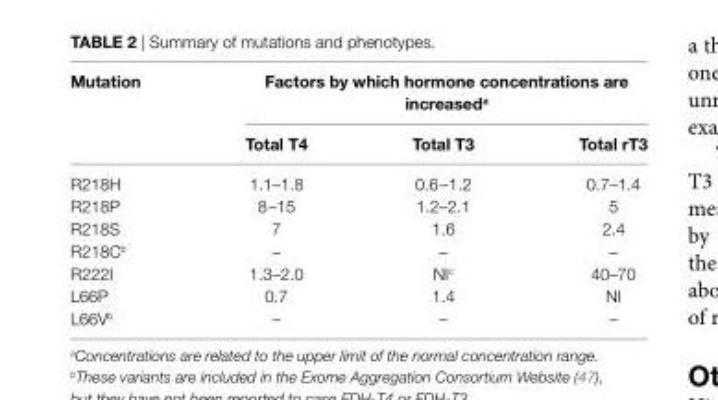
<table><thead><tr><td rowspan="2">Mutation</td><td colspan="3">Factors by which hormone concentrations are increased<sup>a</sup></td></tr><tr><td>Total T4</td><td>Total T3</td><td>Total rT3</td></tr></thead><tbody><tr><td>R218H</td><td>1.1–1.8</td><td>0.6–1.2</td><td>0.7–1.4</td></tr><tr><td>R218P</td><td>8–15</td><td>1.2–2.1</td><td>5</td></tr><tr><td>R218S</td><td>7</td><td>1.6</td><td>2.4</td></tr><tr><td>R218C<sup>b</sup></td><td>–</td><td>–</td><td>–</td></tr><tr><td>R222I</td><td>1.3–2.0</td><td>NI<sup>c</sup></td><td>40–70</td></tr><tr><td>L66P</td><td>0.7</td><td>1.4</td><td>NI</td></tr><tr><td>L66V<sup>b</sup></td><td>–</td><td>–</td><td>–</td></tr></tbody></table>